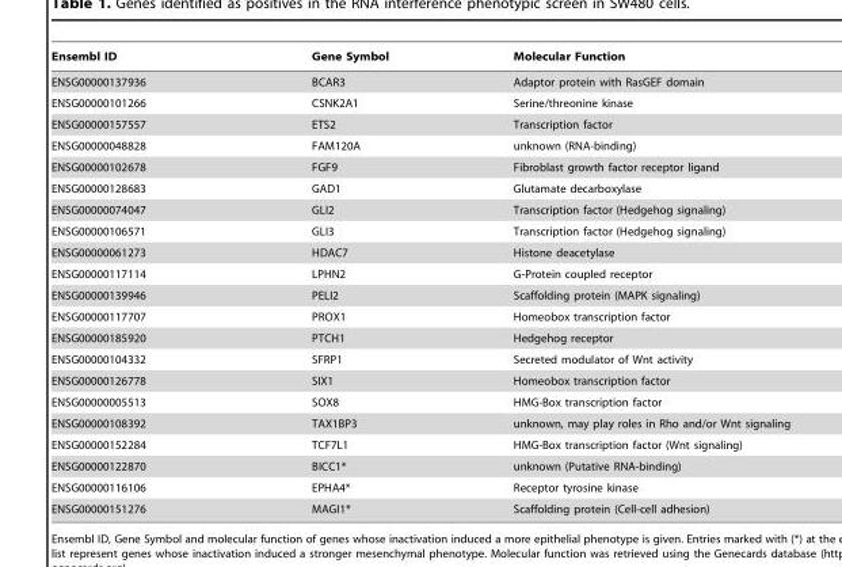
<table><thead><tr><td>Ensembl ID</td><td>Gene Symbol</td><td>Molecular Function</td></tr></thead><tbody><tr><td>ENSG00000137936</td><td>BCAR3</td><td>Adaptor protein with RasGEF domain</td></tr><tr><td>ENSG00000101266</td><td>CSNK2A1</td><td>Serine/threonine kinase</td></tr><tr><td>ENSG00000157557</td><td>ETS2</td><td>Transcription factor</td></tr><tr><td>ENSG00000048828</td><td>FAM120A</td><td>unknown (RNA-binding)</td></tr><tr><td>ENSG00000102678</td><td>FGF9</td><td>Fibroblast growth factor receptor ligand</td></tr><tr><td>ENSG00000128683</td><td>GAD1</td><td>Glutamate decarboxylase</td></tr><tr><td>ENSG00000074047</td><td>GLI2</td><td>Transcription factor (Hedgehog signaling)</td></tr><tr><td>ENSG00000106571</td><td>GLI3</td><td>Transcription factor (Hedgehog signaling)</td></tr><tr><td>ENSG00000061273</td><td>HDAC7</td><td>Histone deacetylase</td></tr><tr><td>ENSG00000117114</td><td>LPHN2</td><td>G-Protein coupled receptor</td></tr><tr><td>ENSG00000139946</td><td>PELI2</td><td>Scaffolding protein (MAPK signaling)</td></tr><tr><td>ENSG00000117707</td><td>PROX1</td><td>Homeobox transcription factor</td></tr><tr><td>ENSG00000185920</td><td>PTCH1</td><td>Hedgehog receptor</td></tr><tr><td>ENSG00000104332</td><td>SFRP1</td><td>Secreted modulator of Wnt activity</td></tr><tr><td>ENSG00000126778</td><td>SIX1</td><td>Homeobox transcription factor</td></tr><tr><td>ENSG00000005513</td><td>SOX8</td><td>HMG-Box transcription factor</td></tr><tr><td>ENSG00000108392</td><td>TAX1BP3</td><td>unknown, may play roles in Rho and/or Wnt signaling</td></tr><tr><td>ENSG00000152284</td><td>TCF7L1</td><td>HMG-Box transcription factor (Wnt signaling)</td></tr><tr><td>ENSG00000122870</td><td>BICC1*</td><td>unknown (Putative RNA-binding)</td></tr><tr><td>ENSG00000116106</td><td>EPHA4*</td><td>Receptor tyrosine kinase</td></tr><tr><td>ENSG00000151276</td><td>MAGI1*</td><td>Scaffolding protein (Cell-cell adhesion)</td></tr></tbody></table>